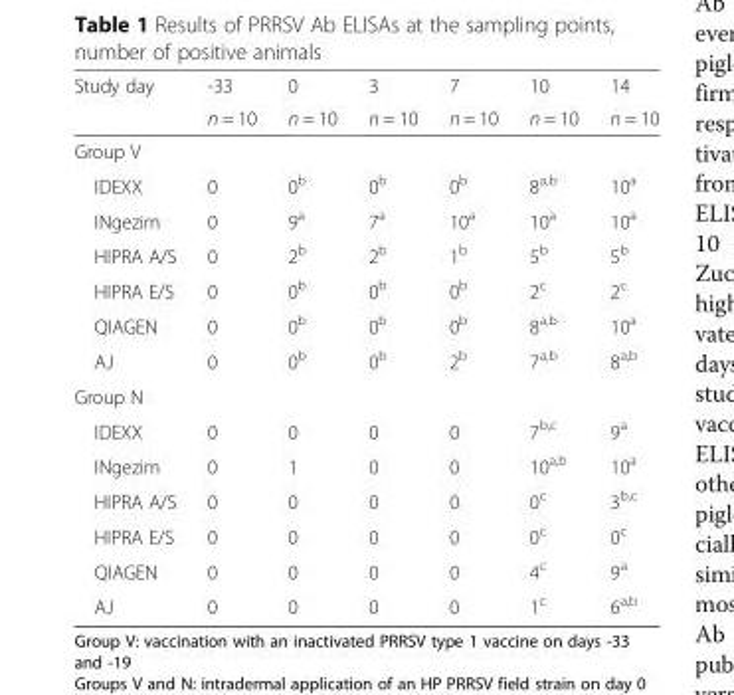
<table><thead><tr><td rowspan="2">Study day</td><td rowspan="2">-33 n = 10</td><td rowspan="2">0 n = 10</td><td rowspan="2">3 n = 10</td><td rowspan="2">7 n = 10</td><td rowspan="2">10 n = 10</td><td rowspan="2">14 n = 10</td></tr><tr></tr></thead><tbody><tr><td colspan="7">Group V</td></tr><tr><td>IDEXX</td><td>0</td><td>0<sup>b</sup></td><td>0<sup>b</sup></td><td>0<sup>b</sup></td><td>8<sup>a,b</sup></td><td>10<sup>a</sup></td></tr><tr><td>INgezim</td><td>0</td><td>9<sup>a</sup></td><td>7<sup>a</sup></td><td>10<sup>a</sup></td><td>10<sup>a</sup></td><td>10<sup>a</sup></td></tr><tr><td>HIPRA A/S</td><td>0</td><td>2<sup>b</sup></td><td>2<sup>b</sup></td><td>1<sup>b</sup></td><td>5<sup>b</sup></td><td>5<sup>b</sup></td></tr><tr><td>HIPRA E/S</td><td>0</td><td>0<sup>b</sup></td><td>0<sup>b</sup></td><td>0<sup>b</sup></td><td>2<sup>c</sup></td><td>2<sup>c</sup></td></tr><tr><td>QIAGEN</td><td>0</td><td>0<sup>b</sup></td><td>0<sup>b</sup></td><td>0<sup>b</sup></td><td>8<sup>a,b</sup></td><td>10<sup>a</sup></td></tr><tr><td>AJ</td><td>0</td><td>0<sup>b</sup></td><td>0<sup>b</sup></td><td>2<sup>b</sup></td><td>7<sup>a,b</sup></td><td>8<sup>a,b</sup></td></tr><tr><td colspan="7">Group N</td></tr><tr><td>IDEXX</td><td>0</td><td>0</td><td>0</td><td>0</td><td>7<sup>b,c</sup></td><td>9<sup>a</sup></td></tr><tr><td>INgezim</td><td>0</td><td>1</td><td>0</td><td>0</td><td>10<sup>a,b</sup></td><td>10<sup>a</sup></td></tr><tr><td>HIPRA A/S</td><td>0</td><td>0</td><td>0</td><td>0</td><td>0<sup>c</sup></td><td>3<sup>b,c</sup></td></tr><tr><td>HIPRA E/S</td><td>0</td><td>0</td><td>0</td><td>0</td><td>0<sup>c</sup></td><td>0<sup>c</sup></td></tr><tr><td>QIAGEN</td><td>0</td><td>0</td><td>0</td><td>0</td><td>4<sup>c</sup></td><td>9<sup>a</sup></td></tr><tr><td>AJ</td><td>0</td><td>0</td><td>0</td><td>0</td><td>1<sup>c</sup></td><td>6<sup>a,b</sup></td></tr></tbody></table>